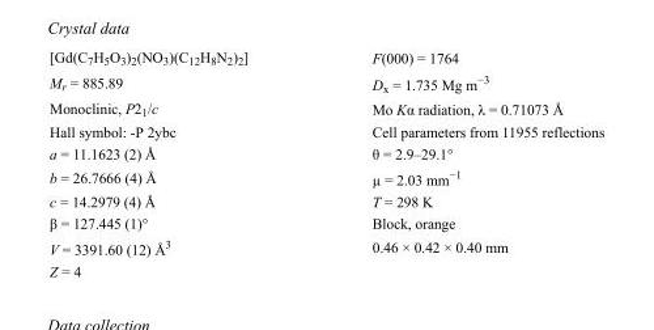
<table><tbody><tr><td>[Gd(C<sub>7</sub>H<sub>5</sub>O<sub>3</sub>)<sub>2</sub>(NO<sub>3</sub>)(C<sub>12</sub>H<sub>8</sub>N<sub>2</sub>)<sub>2</sub>]</td><td>F(000) = 1764</td></tr><tr><td>M<sub>r</sub> = 885.89</td><td>D<sub>x</sub> = 1.735 Mg m<sup>−3</sup></td></tr><tr><td>Monoclinic, P2<sub>1</sub>/c</td><td>Mo Kα radiation, λ = 0.71073 Å</td></tr><tr><td>Hall symbol: -P 2ybc</td><td>Cell parameters from 11955 reflections</td></tr><tr><td>a = 11.1623 (2) Å</td><td>θ = 2.9–29.1°</td></tr><tr><td>b = 26.7666 (4) Å</td><td>µ = 2.03 mm<sup>−1</sup></td></tr><tr><td>c = 14.2979 (4) Å</td><td>T = 298 K</td></tr><tr><td>β = 127.445 (1)°</td><td>Block, orange</td></tr><tr><td>V = 3391.60 (12) Å<sup>3</sup></td><td>0.46 × 0.42 × 0.40 mm</td></tr><tr><td>Z = 4</td><td></td></tr></tbody></table>